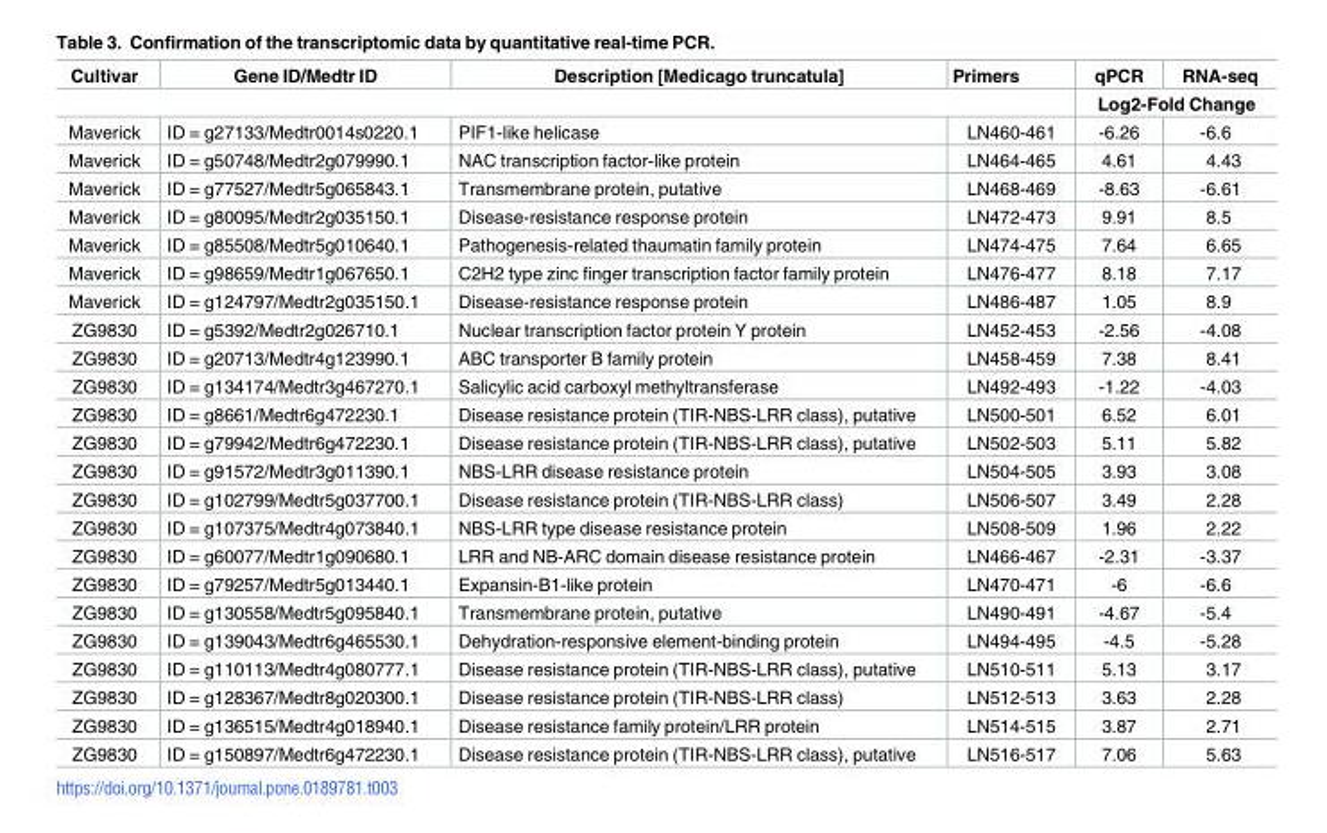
<table><thead><tr><td rowspan="2">Cultivar</td><td rowspan="2">Gene ID/Medtr ID</td><td rowspan="2">Description [Medicago truncatula]</td><td rowspan="2">Primers</td><td>qPCR</td><td>RNA-seq</td></tr><tr><td colspan="2">Log2-Fold Change</td></tr></thead><tbody><tr><td>Maverick</td><td>ID = g27133/Medtr0014s0220.1</td><td>PIF1-like helicase</td><td>LN460-461</td><td>-6.26</td><td>-6.6</td></tr><tr><td>Maverick</td><td>ID = g50748/Medtr2g079990.1</td><td>NAC transcription factor-like protein</td><td>LN464-465</td><td>4.61</td><td>4.43</td></tr><tr><td>Maverick</td><td>ID = g77527/Medtr5g065843.1</td><td>Transmembrane protein, putative</td><td>LN468-469</td><td>-8.63</td><td>-6.61</td></tr><tr><td>Maverick</td><td>ID = g80095/Medtr2g035150.1</td><td>Disease-resistance response protein</td><td>LN472-473</td><td>9.91</td><td>8.5</td></tr><tr><td>Maverick</td><td>ID = g85508/Medtr5g010640.1</td><td>Pathogenesis-related thaumatin family protein</td><td>LN474-475</td><td>7.64</td><td>6.65</td></tr><tr><td>Maverick</td><td>ID = g98659/Medtr1g067650.1</td><td>C2H2 type zinc finger transcription factor family protein</td><td>LN476-477</td><td>8.18</td><td>7.17</td></tr><tr><td>Maverick</td><td>ID = g124797/Medtr2g035150.1</td><td>Disease-resistance response protein</td><td>LN486-487</td><td>1.05</td><td>8.9</td></tr><tr><td>ZG9830</td><td>ID = g5392/Medtr2g026710.1</td><td>Nuclear transcription factor protein Y protein</td><td>LN452-453</td><td>-2.56</td><td>-4.08</td></tr><tr><td>ZG9830</td><td>ID = g20713/Medtr4g123990.1</td><td>ABC transporter B family protein</td><td>LN458-459</td><td>7.38</td><td>8.41</td></tr><tr><td>ZG9830</td><td>ID = g134174/Medtr3g467270.1</td><td>Salicylic acid carboxyl methyltransferase</td><td>LN492-493</td><td>-1.22</td><td>-4.03</td></tr><tr><td>ZG9830</td><td>ID = g8661/Medtr6g472230.1</td><td>Disease resistance protein (TIR-NBS-LRR class), putative</td><td>LN500-501</td><td>6.52</td><td>6.01</td></tr><tr><td>ZG9830</td><td>ID = g79942/Medtr6g472230.1</td><td>Disease resistance protein (TIR-NBS-LRR class), putative</td><td>LN502-503</td><td>5.11</td><td>5.82</td></tr><tr><td>ZG9830</td><td>ID = g91572/Medtr3g011390.1</td><td>NBS-LRR disease resistance protein</td><td>LN504-505</td><td>3.93</td><td>3.08</td></tr><tr><td>ZG9830</td><td>ID = g102799/Medtr5g037700.1</td><td>Disease resistance protein (TIR-NBS-LRR class)</td><td>LN506-507</td><td>3.49</td><td>2.28</td></tr><tr><td>ZG9830</td><td>ID = g107375/Medtr4g073840.1</td><td>NBS-LRR type disease resistance protein</td><td>LN508-509</td><td>1.96</td><td>2.22</td></tr><tr><td>ZG9830</td><td>ID = g60077/Medtr1g090680.1</td><td>LRR and NB-ARC domain disease resistance protein</td><td>LN466-467</td><td>-2.31</td><td>-3.37</td></tr><tr><td>ZG9830</td><td>ID = g79257/Medtr5g013440.1</td><td>Expansin-B1-like protein</td><td>LN470-471</td><td>-6</td><td>-6.6</td></tr><tr><td>ZG9830</td><td>ID = g130558/Medtr5g095840.1</td><td>Transmembrane protein, putative</td><td>LN490-491</td><td>-4.67</td><td>-5.4</td></tr><tr><td>ZG9830</td><td>ID = g139043/Medtr6g465530.1</td><td>Dehydration-responsive element-binding protein</td><td>LN494-495</td><td>-4.5</td><td>-5.28</td></tr><tr><td>ZG9830</td><td>ID = g110113/Medtr4g080777.1</td><td>Disease resistance protein (TIR-NBS-LRR class), putative</td><td>LN510-511</td><td>5.13</td><td>3.17</td></tr><tr><td>ZG9830</td><td>ID = g128367/Medtr8g020300.1</td><td>Disease resistance protein (TIR-NBS-LRR class)</td><td>LN512-513</td><td>3.63</td><td>2.28</td></tr><tr><td>ZG9830</td><td>ID = g136515/Medtr4g018940.1</td><td>Disease resistance family protein/LRR protein</td><td>LN514-515</td><td>3.87</td><td>2.71</td></tr><tr><td>ZG9830</td><td>ID = g150897/Medtr6g472230.1</td><td>Disease resistance protein (TIR-NBS-LRR class), putative</td><td>LN516-517</td><td>7.06</td><td>5.63</td></tr></tbody></table>